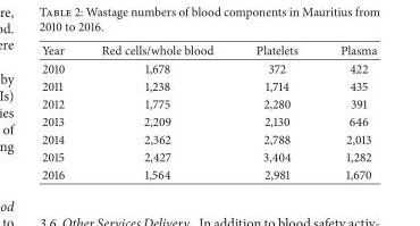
<table><thead><tr><td>Year</td><td>Red cells/whole blood</td><td>Platelets</td><td>Plasma</td></tr></thead><tbody><tr><td>2010</td><td>1,678</td><td>372</td><td>422</td></tr><tr><td>2011</td><td>1,238</td><td>1,714</td><td>435</td></tr><tr><td>2012</td><td>1,775</td><td>2,280</td><td>391</td></tr><tr><td>2013</td><td>2,209</td><td>2,130</td><td>646</td></tr><tr><td>2014</td><td>2,362</td><td>2,788</td><td>2,013</td></tr><tr><td>2015</td><td>2,427</td><td>3,404</td><td>1,282</td></tr><tr><td>2016</td><td>1,564</td><td>2,981</td><td>1,670</td></tr></tbody></table>